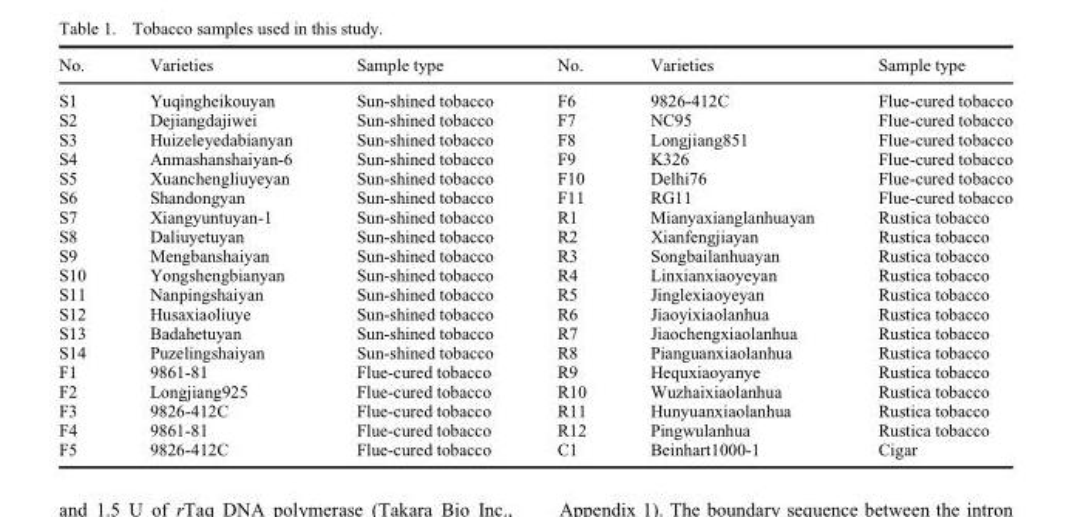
<table><thead><tr><td>No.</td><td>Varieties</td><td>Sample type</td><td>No.</td><td>Varieties</td><td>Sample type</td></tr></thead><tbody><tr><td>S1</td><td>Yuqingheikouyan</td><td>Sun-shined tobacco</td><td>F6</td><td>9826-412C</td><td>Flue-cured tobacco</td></tr><tr><td>S2</td><td>Dejiangdajiwei</td><td>Sun-shined tobacco</td><td>F7</td><td>NC95</td><td>Flue-cured tobacco</td></tr><tr><td>S3</td><td>Huizeleyedabianyan</td><td>Sun-shined tobacco</td><td>F8</td><td>Longjiang851</td><td>Flue-cured tobacco</td></tr><tr><td>S4</td><td>Anmashanshaiyan-6</td><td>Sun-shined tobacco</td><td>F9</td><td>K326</td><td>Flue-cured tobacco</td></tr><tr><td>S5</td><td>Xuanchengliuyeyan</td><td>Sun-shined tobacco</td><td>F10</td><td>Delhi76</td><td>Flue-cured tobacco</td></tr><tr><td>S6</td><td>Shandongyan</td><td>Sun-shined tobacco</td><td>F11</td><td>RG11</td><td>Flue-cured tobacco</td></tr><tr><td>S7</td><td>Xiangyuntuyan-1</td><td>Sun-shined tobacco</td><td>R1</td><td>Mianyaxianglanhuayan</td><td>Rustica tobacco</td></tr><tr><td>S8</td><td>Daliuyetuyan</td><td>Sun-shined tobacco</td><td>R2</td><td>Xianfengjiayan</td><td>Rustica tobacco</td></tr><tr><td>S9</td><td>Mengbanshaiyan</td><td>Sun-shined tobacco</td><td>R3</td><td>Songbailanhuayan</td><td>Rustica tobacco</td></tr><tr><td>S10</td><td>Yongshengbianyan</td><td>Sun-shined tobacco</td><td>R4</td><td>Linxianxiaoyeyan</td><td>Rustica tobacco</td></tr><tr><td>S11</td><td>Nanpingshaiyan</td><td>Sun-shined tobacco</td><td>R5</td><td>Jinglexiaoyeyan</td><td>Rustica tobacco</td></tr><tr><td>S12</td><td>Husaxiaoliuye</td><td>Sun-shined tobacco</td><td>R6</td><td>Jiaoyixiaolanhua</td><td>Rustica tobacco</td></tr><tr><td>S13</td><td>Badahetuyan</td><td>Sun-shined tobacco</td><td>R7</td><td>Jiaochengxiaolanhua</td><td>Rustica tobacco</td></tr><tr><td>S14</td><td>Puzelingshaiyan</td><td>Sun-shined tobacco</td><td>R8</td><td>Pianguanxiaolanhua</td><td>Rustica tobacco</td></tr><tr><td>F1</td><td>9861-81</td><td>Flue-cured tobacco</td><td>R9</td><td>Hequxiaoyanye</td><td>Rustica tobacco</td></tr><tr><td>F2</td><td>Longjiang925</td><td>Flue-cured tobacco</td><td>R10</td><td>Wuzhaixiaolanhua</td><td>Rustica tobacco</td></tr><tr><td>F3</td><td>9826-412C</td><td>Flue-cured tobacco</td><td>R11</td><td>Hunyuanxiaolanhua</td><td>Rustica tobacco</td></tr><tr><td>F4</td><td>9861-81</td><td>Flue-cured tobacco</td><td>R12</td><td>Pingwulanhua</td><td>Rustica tobacco</td></tr><tr><td>F5</td><td>9826-412C</td><td>Flue-cured tobacco</td><td>C1</td><td>Beinhart1000-1</td><td>Cigar</td></tr></tbody></table>